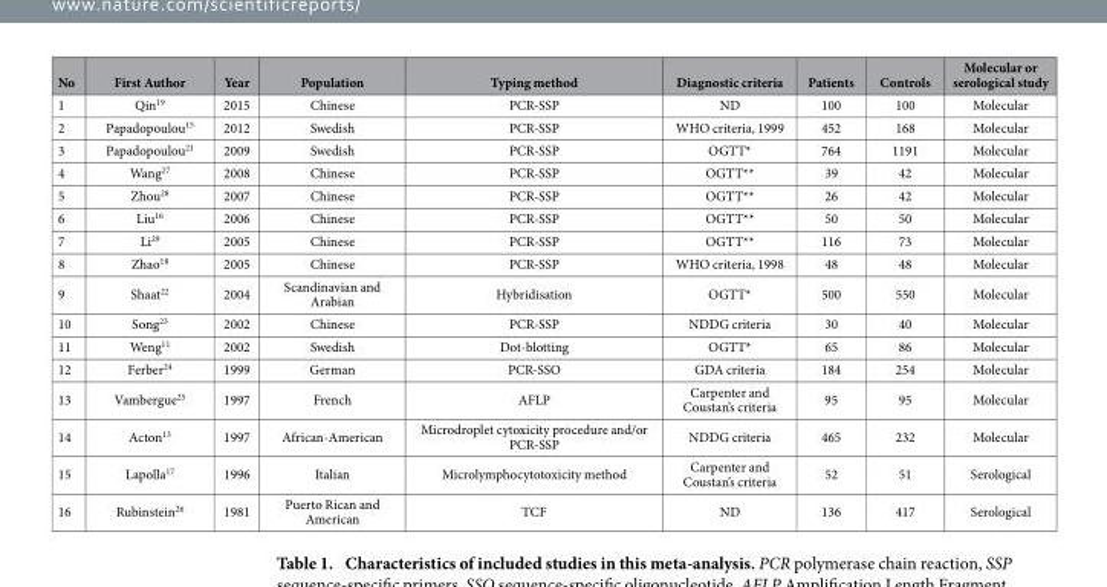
<table><thead><tr><td>No</td><td>First Author</td><td>Year</td><td>Population</td><td>Typing method</td><td>Diagnostic criteria</td><td>Patients</td><td>Controls</td><td>Molecular or serological study</td></tr></thead><tbody><tr><td>1</td><td>Qin<sup>19</sup></td><td>2015</td><td>Chinese</td><td>PCR-SSP</td><td>ND</td><td>100</td><td>100</td><td>Molecular</td></tr><tr><td>2</td><td>Papadopoulou<sup>15</sup></td><td>2012</td><td>Swedish</td><td>PCR-SSP</td><td>WHO criteria, 1999</td><td>452</td><td>168</td><td>Molecular</td></tr><tr><td>3</td><td>Papadopoulou<sup>21</sup></td><td>2009</td><td>Swedish</td><td>PCR-SSP</td><td>OGTT*</td><td>764</td><td>1191</td><td>Molecular</td></tr><tr><td>4</td><td>Wang<sup>27</sup></td><td>2008</td><td>Chinese</td><td>PCR-SSP</td><td>OGTT**</td><td>39</td><td>42</td><td>Molecular</td></tr><tr><td>5</td><td>Zhou<sup>28</sup></td><td>2007</td><td>Chinese</td><td>PCR-SSP</td><td>OGTT**</td><td>26</td><td>42</td><td>Molecular</td></tr><tr><td>6</td><td>Liu<sup>16</sup></td><td>2006</td><td>Chinese</td><td>PCR-SSP</td><td>OGTT**</td><td>50</td><td>50</td><td>Molecular</td></tr><tr><td>7</td><td>Li<sup>29</sup></td><td>2005</td><td>Chinese</td><td>PCR-SSP</td><td>OGTT**</td><td>116</td><td>73</td><td>Molecular</td></tr><tr><td>8</td><td>Zhao<sup>18</sup></td><td>2005</td><td>Chinese</td><td>PCR-SSP</td><td>WHO criteria, 1998</td><td>48</td><td>48</td><td>Molecular</td></tr><tr><td>9</td><td>Shaat<sup>22</sup></td><td>2004</td><td>Scandinavian and Arabian</td><td>Hybridisation</td><td>OGTT*</td><td>500</td><td>550</td><td>Molecular</td></tr><tr><td>10</td><td>Song<sup>23</sup></td><td>2002</td><td>Chinese</td><td>PCR-SSP</td><td>NDDG criteria</td><td>30</td><td>40</td><td>Molecular</td></tr><tr><td>11</td><td>Weng<sup>11</sup></td><td>2002</td><td>Swedish</td><td>Dot-blotting</td><td>OGTT*</td><td>65</td><td>86</td><td>Molecular</td></tr><tr><td>12</td><td>Ferber<sup>24</sup></td><td>1999</td><td>German</td><td>PCR-SSO</td><td>GDA criteria</td><td>184</td><td>254</td><td>Molecular</td></tr><tr><td>13</td><td>Vambergue<sup>25</sup></td><td>1997</td><td>French</td><td>AFLP</td><td>Carpenter and Coustan’s criteria</td><td>95</td><td>95</td><td>Molecular</td></tr><tr><td>14</td><td>Acton<sup>13</sup></td><td>1997</td><td>African-American</td><td>Microdroplet cytoxicity procedure and/or PCR-SSP</td><td>NDDG criteria</td><td>465</td><td>232</td><td>Molecular</td></tr><tr><td>15</td><td>Lapolla<sup>17</sup></td><td>1996</td><td>Italian</td><td>Microlymphocytotoxicity method</td><td>Carpenter and Coustan’s criteria</td><td>52</td><td>51</td><td>Serological</td></tr><tr><td>16</td><td>Rubinstein<sup>26</sup></td><td>1981</td><td>Puerto Rican and American</td><td>TCF</td><td>ND</td><td>136</td><td>417</td><td>Serological</td></tr></tbody></table>